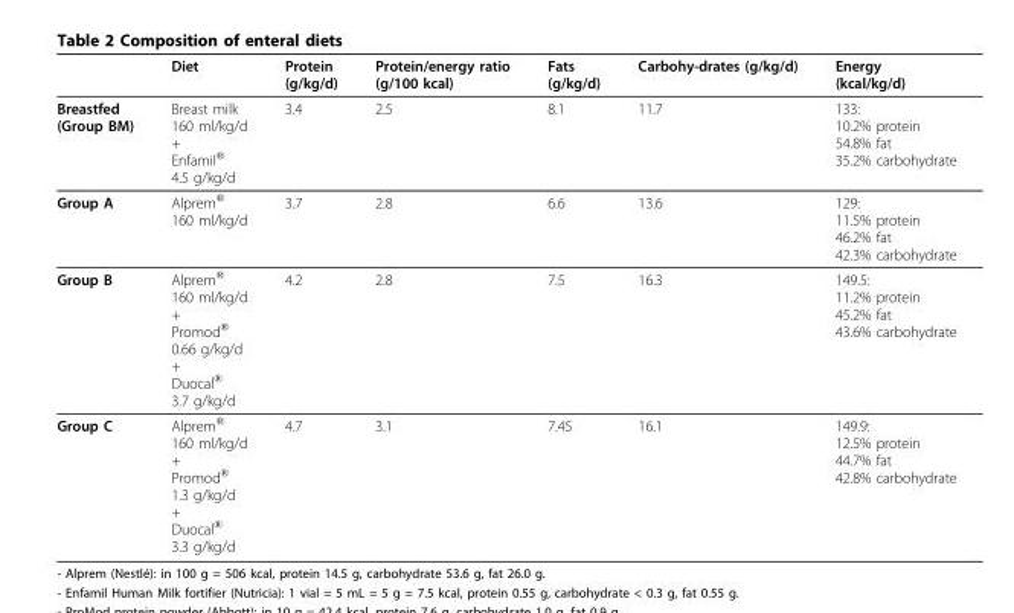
<table><thead><tr><td></td><td>Diet</td><td>Protein (g/kg/d)</td><td>Protein/energy ratio (g/100 kcal)</td><td>Fats (g/kg/d)</td><td>Carbohy-drates (g/kg/d)</td><td>Energy (kcal/kg/d)</td></tr></thead><tbody><tr><td>Breastfed (Group BM)</td><td>Breast milk 160 ml/kg/d + Enfamil<sup>®</sup> 4.5 g/kg/d</td><td>3.4</td><td>2.5</td><td>8.1</td><td>11.7</td><td>133: 10.2% protein 54.8% fat 35.2% carbohydrate</td></tr><tr><td>Group A</td><td>Alprem<sup>®</sup> 160 ml/kg/d</td><td>3.7</td><td>2.8</td><td>6.6</td><td>13.6</td><td>129: 11.5% protein 46.2% fat 42.3% carbohydrate</td></tr><tr><td>Group B</td><td>Alprem<sup>®</sup> 160 ml/kg/d + Promod<sup>®</sup> 0.66 g/kg/d + Duocal<sup>®</sup> 3.7 g/kg/d</td><td>4.2</td><td>2.8</td><td>7.5</td><td>16.3</td><td>149.5: 11.2% protein 45.2% fat 43.6% carbohydrate</td></tr><tr><td>Group C</td><td>Alprem<sup>®</sup> 160 ml/kg/d + Promod<sup>®</sup> 1.3 g/kg/d + Duocal<sup>®</sup> 3.3 g/kg/d</td><td>4.7</td><td>3.1</td><td>7.45</td><td>16.1</td><td>149.9: 12.5% protein 44.7% fat 42.8% carbohydrate</td></tr></tbody></table>